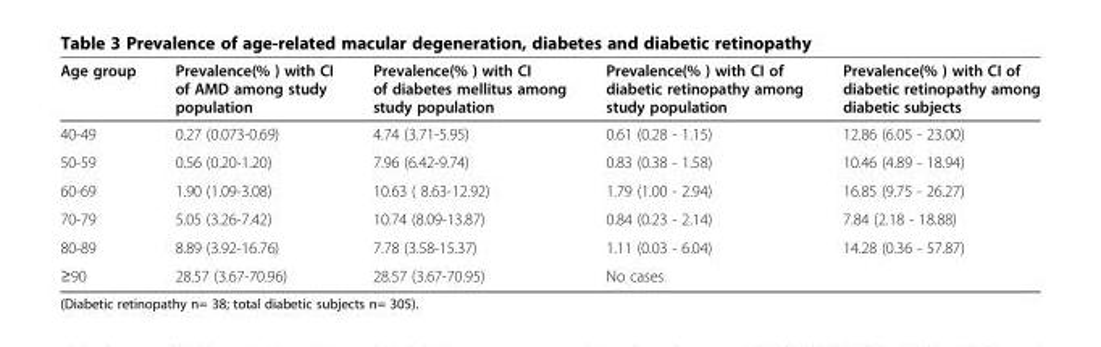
<table><thead><tr><td>Age group</td><td>Prevalence(% ) with CI of AMD among study population</td><td>Prevalence(% ) with CI of diabetes mellitus among study population</td><td>Prevalence(% ) with CI of diabetic retinopathy among study population</td><td>Prevalence(% ) with CI of diabetic retinopathy among diabetic subjects</td></tr></thead><tbody><tr><td>40-49</td><td>0.27 (0.073-0.69)</td><td>4.74 (3.71-5.95)</td><td>0.61 (0.28 - 1.15)</td><td>12.86 (6.05 - 23.00)</td></tr><tr><td>50-59</td><td>0.56 (0.20-1.20)</td><td>7.96 (6.42-9.74)</td><td>0.83 (0.38 - 1.58)</td><td>10.46 (4.89 - 18.94)</td></tr><tr><td>60-69</td><td>1.90 (1.09-3.08)</td><td>10.63 ( 8.63-12.92)</td><td>1.79 (1.00 - 2.94)</td><td>16.85 (9.75 - 26.27)</td></tr><tr><td>70-79</td><td>5.05 (3.26-7.42)</td><td>10.74 (8.09-13.87)</td><td>0.84 (0.23 - 2.14)</td><td>7.84 (2.18 - 18.88)</td></tr><tr><td>80-89</td><td>8.89 (3.92-16.76)</td><td>7.78 (3.58-15.37)</td><td>1.11 (0.03 - 6.04)</td><td>14.28 (0.36 - 57.87)</td></tr><tr><td>≥90</td><td>28.57 (3.67-70.96)</td><td>28.57 (3.67-70.95)</td><td>No cases</td><td></td></tr></tbody></table>